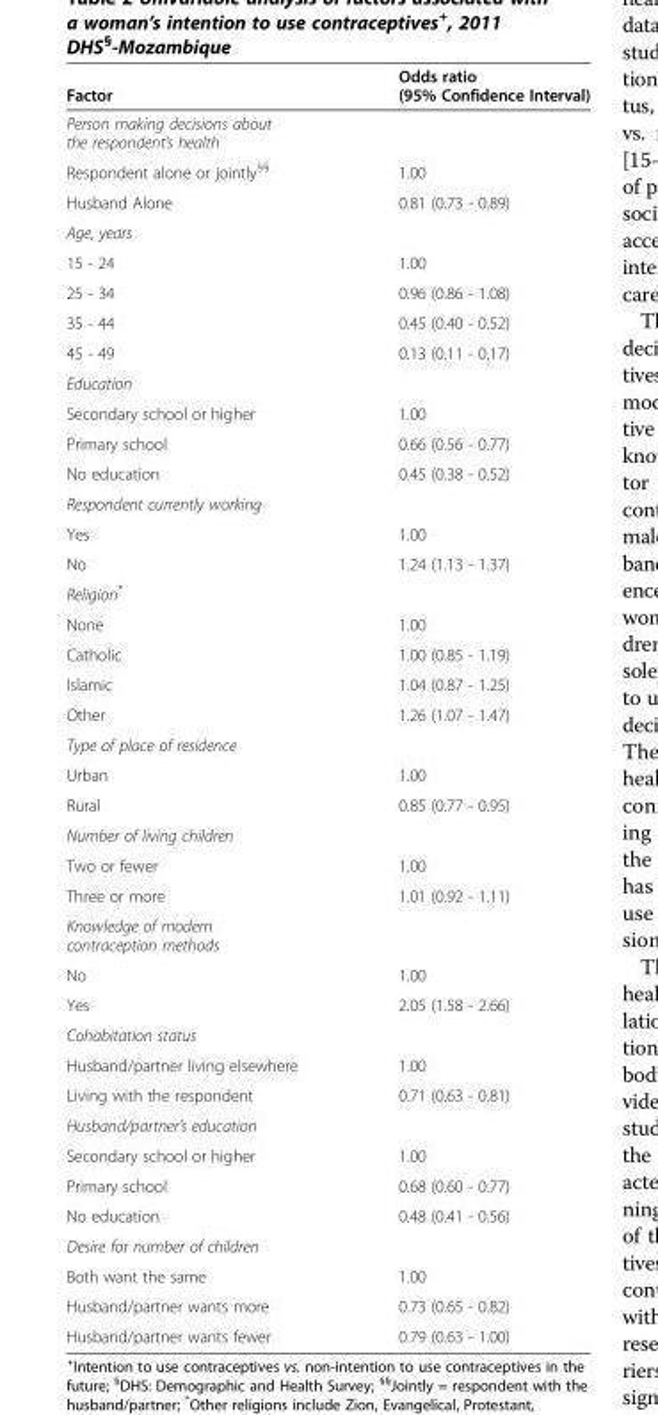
<table><thead><tr><td>Factor</td><td>Odds ratio (95% Confidence Interval)</td></tr></thead><tbody><tr><td colspan="2">Person making decisions about the respondent’s health</td></tr><tr><td>Respondent alone or jointly<sup>§§</sup></td><td>1.00</td></tr><tr><td>Husband Alone</td><td>0.81 (0.73 - 0.89)</td></tr><tr><td colspan="2">Age, years</td></tr><tr><td>15 - 24</td><td>1.00</td></tr><tr><td>25 - 34</td><td>0.96 (0.86 - 1.08)</td></tr><tr><td>35 - 44</td><td>0.45 (0.40 - 0.52)</td></tr><tr><td>45 - 49</td><td>0.13 (0.11 - 0.17)</td></tr><tr><td colspan="2">Education</td></tr><tr><td>Secondary school or higher</td><td>1.00</td></tr><tr><td>Primary school</td><td>0.66 (0.56 - 0.77)</td></tr><tr><td>No education</td><td>0.45 (0.38 - 0.52)</td></tr><tr><td colspan="2">Respondent currently working</td></tr><tr><td>Yes</td><td>1.00</td></tr><tr><td>No</td><td>1.24 (1.13 - 1.37)</td></tr><tr><td colspan="2">Religion*</td></tr><tr><td>None</td><td>1.00</td></tr><tr><td>Catholic</td><td>1.00 (0.85 - 1.19)</td></tr><tr><td>Islamic</td><td>1.04 (0.87 - 1.25)</td></tr><tr><td>Other</td><td>1.26 (1.07 - 1.47)</td></tr><tr><td colspan="2">Type of place of residence</td></tr><tr><td>Urban</td><td>1.00</td></tr><tr><td>Rural</td><td>0.85 (0.77 - 0.95)</td></tr><tr><td colspan="2">Number of living children</td></tr><tr><td>Two or fewer</td><td>1.00</td></tr><tr><td>Three or more</td><td>1.01 (0.92 - 1.11)</td></tr><tr><td colspan="2">Knowledge of modern contraception methods</td></tr><tr><td>No</td><td>1.00</td></tr><tr><td>Yes</td><td>2.05 (1.58 - 2.66)</td></tr><tr><td colspan="2">Cohabitation status</td></tr><tr><td>Husband/partner living elsewhere</td><td>1.00</td></tr><tr><td>Living with the respondent</td><td>0.71 (0.63 - 0.81)</td></tr><tr><td colspan="2">Husband/partner’s education</td></tr><tr><td>Secondary school or higher</td><td>1.00</td></tr><tr><td>Primary school</td><td>0.68 (0.60 - 0.77)</td></tr><tr><td>No education</td><td>0.48 (0.41 - 0.56)</td></tr><tr><td colspan="2">Desire for number of children</td></tr><tr><td>Both want the same</td><td>1.00</td></tr><tr><td>Husband/partner wants more</td><td>0.73 (0.65 - 0.82)</td></tr><tr><td>Husband/partner wants fewer</td><td>0.79 (0.63 - 1.00)</td></tr></tbody></table>